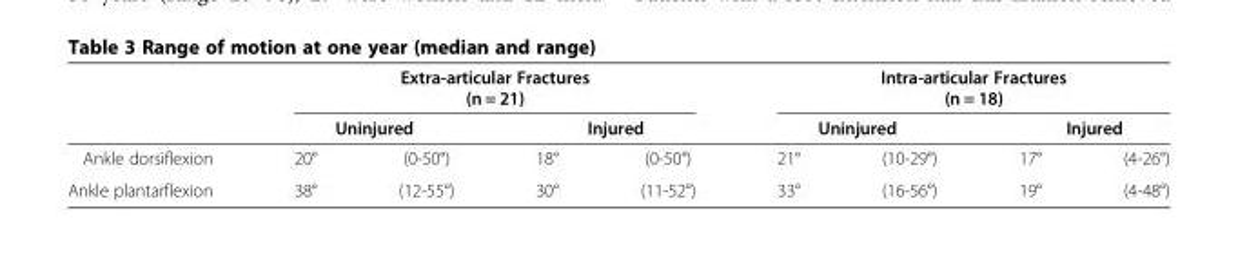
<table><thead><tr><td rowspan="3">Ankle dorsiflexion</td><td colspan="4">Extra-articular Fractures (n = 21)</td><td colspan="4">Intra-articular Fractures (n = 18)</td></tr><tr><td colspan="2">Uninjured</td><td colspan="2">Injured</td><td colspan="2">Uninjured</td><td colspan="2">Injured</td></tr><tr><td>20°</td><td>(0-50°)</td><td>18°</td><td>(0-50°)</td><td>21°</td><td>(10-29°)</td><td>17°</td><td>(4-26°)</td></tr></thead><tbody><tr><td>Ankle plantarflexion</td><td>38°</td><td>(12-55°)</td><td>30°</td><td>(11-52°)</td><td>33°</td><td>(16-56°)</td><td>19°</td><td>(4-48°)</td></tr></tbody></table>